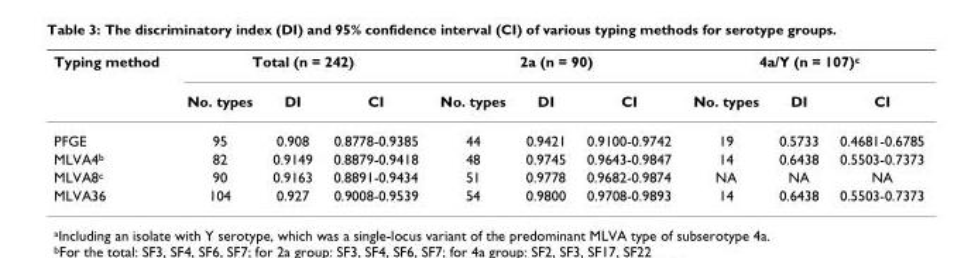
<table><thead><tr><td rowspan="2">Typing method</td><td colspan="3">Total (n = 242)</td><td colspan="3">2a (n = 90)</td><td colspan="3">4a/Y (n = 107)<sup>c</sup></td></tr><tr><td>No. types</td><td>DI</td><td>CI</td><td>No. types</td><td>DI</td><td>CI</td><td>No. types</td><td>DI</td><td>CI</td></tr></thead><tbody><tr><td>PFGE</td><td>95</td><td>0.908</td><td>0.8778-0.9385</td><td>44</td><td>0.9421</td><td>0.9100-0.9742</td><td>19</td><td>0.5733</td><td>0.4681-0.6785</td></tr><tr><td>MLVA4<sup>b</sup></td><td>82</td><td>0.9149</td><td>0.8879-0.9418</td><td>48</td><td>0.9745</td><td>0.9643-0.9847</td><td>14</td><td>0.6438</td><td>0.5503-0.7373</td></tr><tr><td>MLVA8<sup>c</sup></td><td>90</td><td>0.9163</td><td>0.8891-0.9434</td><td>51</td><td>0.9778</td><td>0.9682-0.9874</td><td>NA</td><td>NA</td><td>NA</td></tr><tr><td>MLVA36</td><td>104</td><td>0.927</td><td>0.9008-0.9539</td><td>54</td><td>0.9800</td><td>0.9708-0.9893</td><td>14</td><td>0.6438</td><td>0.5503-0.7373</td></tr></tbody></table>